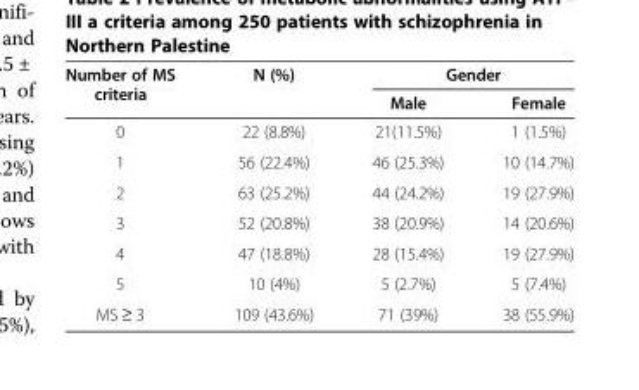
<table><thead><tr><td rowspan="2">Number of MS criteria</td><td rowspan="2">N (%)</td><td colspan="2">Gender</td></tr><tr><td>Male</td><td>Female</td></tr></thead><tbody><tr><td>0</td><td>22 (8.8%)</td><td>21(11.5%)</td><td>1 (1.5%)</td></tr><tr><td>1</td><td>56 (22.4%)</td><td>46 (25.3%)</td><td>10 (14.7%)</td></tr><tr><td>2</td><td>63 (25.2%)</td><td>44 (24.2%)</td><td>19 (27.9%)</td></tr><tr><td>3</td><td>52 (20.8%)</td><td>38 (20.9%)</td><td>14 (20.6%)</td></tr><tr><td>4</td><td>47 (18.8%)</td><td>28 (15.4%)</td><td>19 (27.9%)</td></tr><tr><td>5</td><td>10 (4%)</td><td>5 (2.7%)</td><td>5 (7.4%)</td></tr><tr><td>MS ≥ 3</td><td>109 (43.6%)</td><td>71 (39%)</td><td>38 (55.9%)</td></tr></tbody></table>